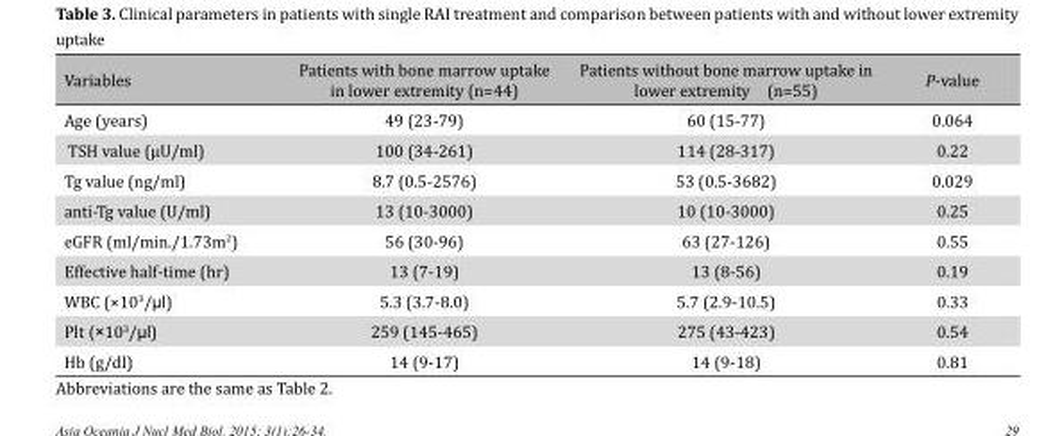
<table><thead><tr><td>Variables</td><td>Patients with bone marrow uptake in lower extremity (n=44)</td><td>Patients without bone marrow uptake in lower extremity (n=55)</td><td>P-value</td></tr></thead><tbody><tr><td>Age (years)</td><td>49 (23-79)</td><td>60 (15-77)</td><td>0.064</td></tr><tr><td>TSH value (μU/ml)</td><td>100 (34-261)</td><td>114 (28-317)</td><td>0.22</td></tr><tr><td>Tg value (ng/ml)</td><td>8.7 (0.5-2576)</td><td>53 (0.5-3682)</td><td>0.029</td></tr><tr><td>anti-Tg value (U/ml)</td><td>13 (10-3000)</td><td>10 (10-3000)</td><td>0.25</td></tr><tr><td>eGFR (ml/min./1.73m<sup>2</sup>)</td><td>56 (30-96)</td><td>63 (27-126)</td><td>0.55</td></tr><tr><td>Effective half-time (hr)</td><td>13 (7-19)</td><td>13 (8-56)</td><td>0.19</td></tr><tr><td>WBC (×10<sup>3</sup>/μl)</td><td>5.3 (3.7-8.0)</td><td>5.7 (2.9-10.5)</td><td>0.33</td></tr><tr><td>Plt (×10<sup>3</sup>/μl)</td><td>259 (145-465)</td><td>275 (43-423)</td><td>0.54</td></tr><tr><td>Hb (g/dl)</td><td>14 (9-17)</td><td>14 (9-18)</td><td>0.81</td></tr></tbody></table>